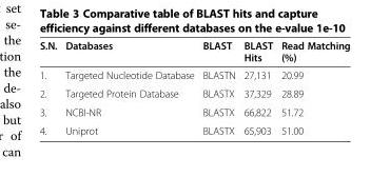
<table><thead><tr><td>S.N.</td><td>Databases</td><td>BLAST</td><td>BLAST Hits</td><td>Read Matching (%)</td></tr></thead><tbody><tr><td>1.</td><td>Targeted Nucleotide Database</td><td>BLASTN</td><td>27,131</td><td>20.99</td></tr><tr><td>2.</td><td>Targeted Protein Database</td><td>BLASTX</td><td>37,329</td><td>28.89</td></tr><tr><td>3.</td><td>NCBI-NR</td><td>BLASTX</td><td>66,822</td><td>51.72</td></tr><tr><td>4.</td><td>Uniprot</td><td>BLASTX</td><td>65,903</td><td>51.00</td></tr></tbody></table>